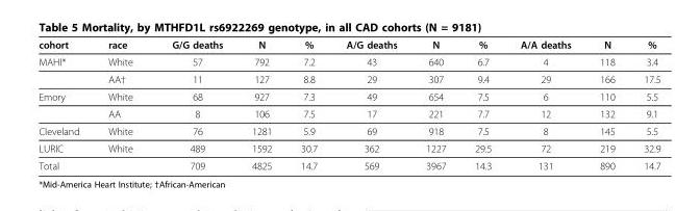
<table><thead><tr><td>cohort</td><td>race</td><td>G/G deaths</td><td>N</td><td>%</td><td>A/G deaths</td><td>N</td><td>%</td><td>A/A deaths</td><td>N</td><td>%</td></tr></thead><tbody><tr><td rowspan="2">MAHI*</td><td>White</td><td>57</td><td>792</td><td>7.2</td><td>43</td><td>640</td><td>6.7</td><td>4</td><td>118</td><td>3.4</td></tr><tr><td>AA†</td><td>11</td><td>127</td><td>8.8</td><td>29</td><td>307</td><td>9.4</td><td>29</td><td>166</td><td>17.5</td></tr><tr><td rowspan="2">Emory</td><td>White</td><td>68</td><td>927</td><td>7.3</td><td>49</td><td>654</td><td>7.5</td><td>6</td><td>110</td><td>5.5</td></tr><tr><td>AA</td><td>8</td><td>106</td><td>7.5</td><td>17</td><td>221</td><td>7.7</td><td>12</td><td>132</td><td>9.1</td></tr><tr><td>Cleveland</td><td>White</td><td>76</td><td>1281</td><td>5.9</td><td>69</td><td>918</td><td>7.5</td><td>8</td><td>145</td><td>5.5</td></tr><tr><td>LURIC</td><td>White</td><td>489</td><td>1592</td><td>30.7</td><td>362</td><td>1227</td><td>29.5</td><td>72</td><td>219</td><td>32.9</td></tr><tr><td>Total</td><td></td><td>709</td><td>4825</td><td>14.7</td><td>569</td><td>3967</td><td>14.3</td><td>131</td><td>890</td><td>14.7</td></tr></tbody></table>